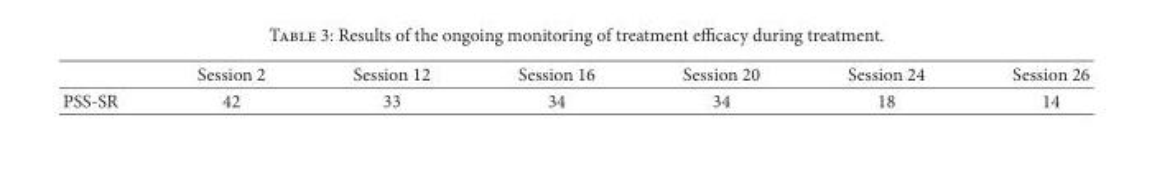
<table><thead><tr><td></td><td>Session 2</td><td>Session 12</td><td>Session 16</td><td>Session 20</td><td>Session 24</td><td>Session 26</td></tr></thead><tbody><tr><td>PSS-SR</td><td>42</td><td>33</td><td>34</td><td>34</td><td>18</td><td>14</td></tr></tbody></table>